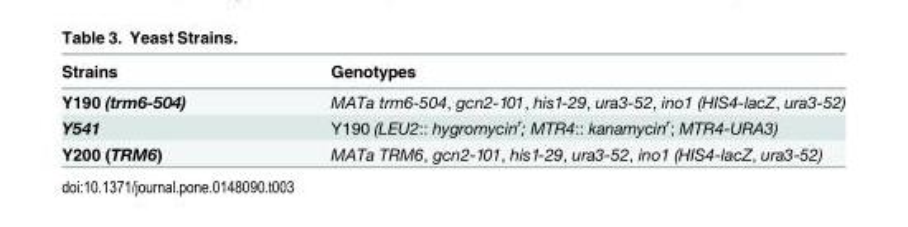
<table><thead><tr><td>Strains</td><td>Genotypes</td></tr></thead><tbody><tr><td>Y190 (trm6-504)</td><td>MATa trm6-504, gcn2-101, his1-29, ura3-52, ino1 (HIS4-lacZ, ura3-52)</td></tr><tr><td>Y541</td><td>Y190 (LEU2:: hygromycin<sup>r</sup>; MTR4:: kanamycin<sup>r</sup>; MTR4-URA3)</td></tr><tr><td>Y200 (TRM6)</td><td>MATa TRM6, gcn2-101, his1-29, ura3-52, ino1 (HIS4-lacZ, ura3-52)</td></tr></tbody></table>